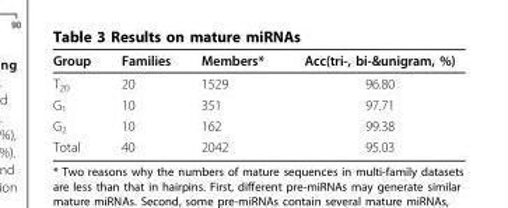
<table><thead><tr><td>Group</td><td>Families</td><td>Members*</td><td>Acc(tri-, bi-&amp;unigram, %)</td></tr></thead><tbody><tr><td>T<sub>20</sub></td><td>20</td><td>1529</td><td>96.80</td></tr><tr><td>G<sub>1</sub></td><td>10</td><td>351</td><td>97.71</td></tr><tr><td>G<sub>2</sub></td><td>10</td><td>162</td><td>99.38</td></tr><tr><td>Total</td><td>40</td><td>2042</td><td>95.03</td></tr></tbody></table>